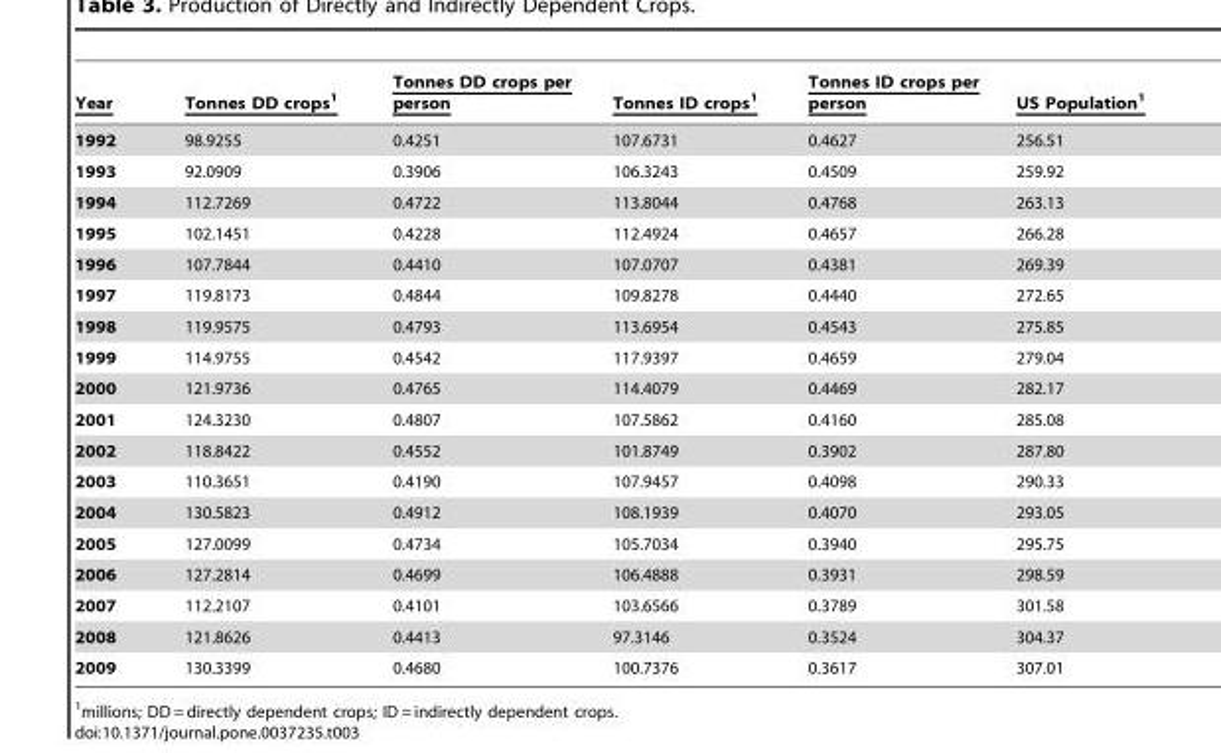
<table><thead><tr><td>Year</td><td>Tonnes DD crops1</td><td>Tonnes DD crops per person</td><td>Tonnes ID crops1</td><td>Tonnes ID crops per person</td><td>US Population1</td></tr></thead><tbody><tr><td>1992</td><td>98.9255</td><td>0.4251</td><td>107.6731</td><td>0.4627</td><td>256.51</td></tr><tr><td>1993</td><td>92.0909</td><td>0.3906</td><td>106.3243</td><td>0.4509</td><td>259.92</td></tr><tr><td>1994</td><td>112.7269</td><td>0.4722</td><td>113.8044</td><td>0.4768</td><td>263.13</td></tr><tr><td>1995</td><td>102.1451</td><td>0.4228</td><td>112.4924</td><td>0.4657</td><td>266.28</td></tr><tr><td>1996</td><td>107.7844</td><td>0.4410</td><td>107.0707</td><td>0.4381</td><td>269.39</td></tr><tr><td>1997</td><td>119.8173</td><td>0.4844</td><td>109.8278</td><td>0.4440</td><td>272.65</td></tr><tr><td>1998</td><td>119.9575</td><td>0.4793</td><td>113.6954</td><td>0.4543</td><td>275.85</td></tr><tr><td>1999</td><td>114.9755</td><td>0.4542</td><td>117.9397</td><td>0.4659</td><td>279.04</td></tr><tr><td>2000</td><td>121.9736</td><td>0.4765</td><td>114.4079</td><td>0.4469</td><td>282.17</td></tr><tr><td>2001</td><td>124.3230</td><td>0.4807</td><td>107.5862</td><td>0.4160</td><td>285.08</td></tr><tr><td>2002</td><td>118.8422</td><td>0.4552</td><td>101.8749</td><td>0.3902</td><td>287.80</td></tr><tr><td>2003</td><td>110.3651</td><td>0.4190</td><td>107.9457</td><td>0.4098</td><td>290.33</td></tr><tr><td>2004</td><td>130.5823</td><td>0.4912</td><td>108.1939</td><td>0.4070</td><td>293.05</td></tr><tr><td>2005</td><td>127.0099</td><td>0.4734</td><td>105.7034</td><td>0.3940</td><td>295.75</td></tr><tr><td>2006</td><td>127.2814</td><td>0.4699</td><td>106.4888</td><td>0.3931</td><td>298.59</td></tr><tr><td>2007</td><td>112.2107</td><td>0.4101</td><td>103.6566</td><td>0.3789</td><td>301.58</td></tr><tr><td>2008</td><td>121.8626</td><td>0.4413</td><td>97.3146</td><td>0.3524</td><td>304.37</td></tr><tr><td>2009</td><td>130.3399</td><td>0.4680</td><td>100.7376</td><td>0.3617</td><td>307.01</td></tr></tbody></table>